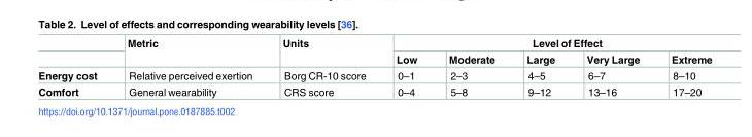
<table><thead><tr><td rowspan="2"></td><td rowspan="2">Metric</td><td rowspan="2">Units</td><td colspan="5">Level of Effect</td></tr><tr><td>Low</td><td>Moderate</td><td>Large</td><td>Very Large</td><td>Extreme</td></tr></thead><tbody><tr><td>Energy cost</td><td>Relative perceived exertion</td><td>Borg CR-10 score</td><td>0–1</td><td>2–3</td><td>4–5</td><td>6–7</td><td>8–10</td></tr><tr><td>Comfort</td><td>General wearability</td><td>CRS score</td><td>0–4</td><td>5–8</td><td>9–12</td><td>13–16</td><td>17–20</td></tr></tbody></table>